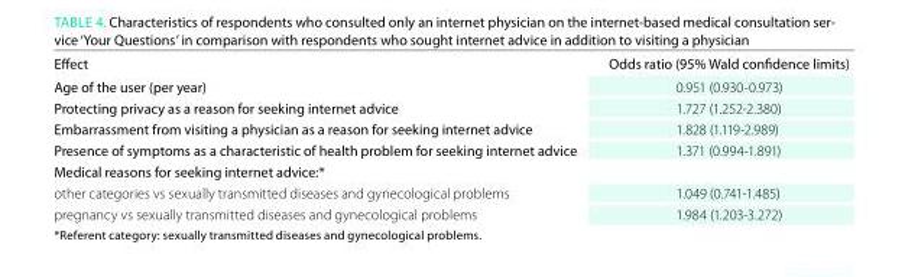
<table><thead><tr><td>effect</td><td>odds ratio (95% Wald confidence limits)</td></tr></thead><tbody><tr><td>Age of the user (per year)</td><td>0.951 (0.930-0.973)</td></tr><tr><td>Protecting privacy as a reason for seeking internet advice</td><td>1.727 (1.252-2.380)</td></tr><tr><td>embarrassment from visiting a physician as a reason for seeking internet advice</td><td>1.828 (1.119-2.989)</td></tr><tr><td>Presence of symptoms as a characteristic of health problem for seeking internet advice</td><td>1.371 (0.994-1.891)</td></tr><tr><td colspan="2">Medical reasons for seeking internet advice:*</td></tr><tr><td>other categories vs sexually transmitted diseases and gynecological problems</td><td>1.049 (0.741-1.485)</td></tr><tr><td>pregnancy vs sexually transmitted diseases and gynecological problems</td><td>1.984 (1.203-3.272)</td></tr></tbody></table>